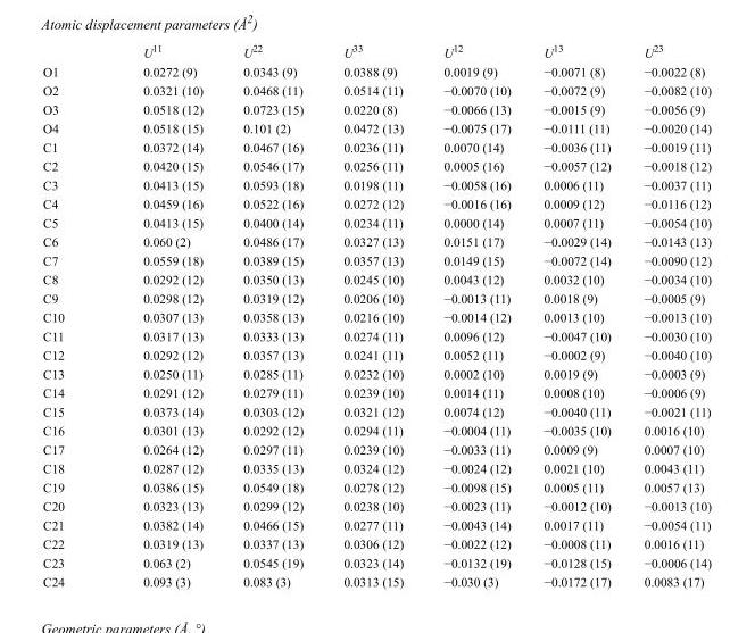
<table><thead><tr><td></td><td>U<sup>11</sup></td><td>U<sup>22</sup></td><td>U<sup>33</sup></td><td>U<sup>12</sup></td><td>U<sup>13</sup></td><td>U<sup>23</sup></td></tr></thead><tbody><tr><td>O1</td><td>0.0272 (9)</td><td>0.0343 (9)</td><td>0.0388 (9)</td><td>0.0019 (9)</td><td>−0.0071 (8)</td><td>−0.0022 (8)</td></tr><tr><td>O2</td><td>0.0321 (10)</td><td>0.0468 (11)</td><td>0.0514 (11)</td><td>−0.0070 (10)</td><td>−0.0072 (9)</td><td>−0.0082 (10)</td></tr><tr><td>O3</td><td>0.0518 (12)</td><td>0.0723 (15)</td><td>0.0220 (8)</td><td>−0.0066 (13)</td><td>−0.0015 (9)</td><td>−0.0056 (9)</td></tr><tr><td>O4</td><td>0.0518 (15)</td><td>0.101 (2)</td><td>0.0472 (13)</td><td>−0.0075 (17)</td><td>−0.0111 (11)</td><td>−0.0020 (14)</td></tr><tr><td>C1</td><td>0.0372 (14)</td><td>0.0467 (16)</td><td>0.0236 (11)</td><td>0.0070 (14)</td><td>−0.0036 (11)</td><td>−0.0019 (11)</td></tr><tr><td>C2</td><td>0.0420 (15)</td><td>0.0546 (17)</td><td>0.0256 (11)</td><td>0.0005 (16)</td><td>−0.0057 (12)</td><td>−0.0018 (12)</td></tr><tr><td>C3</td><td>0.0413 (15)</td><td>0.0593 (18)</td><td>0.0198 (11)</td><td>−0.0058 (16)</td><td>0.0006 (11)</td><td>−0.0037 (11)</td></tr><tr><td>C4</td><td>0.0459 (16)</td><td>0.0522 (16)</td><td>0.0272 (12)</td><td>−0.0016 (16)</td><td>0.0009 (12)</td><td>−0.0116 (12)</td></tr><tr><td>C5</td><td>0.0413 (15)</td><td>0.0400 (14)</td><td>0.0234 (11)</td><td>0.0000 (14)</td><td>0.0007 (11)</td><td>−0.0054 (10)</td></tr><tr><td>C6</td><td>0.060 (2)</td><td>0.0486 (17)</td><td>0.0327 (13)</td><td>0.0151 (17)</td><td>−0.0029 (14)</td><td>−0.0143 (13)</td></tr><tr><td>C7</td><td>0.0559 (18)</td><td>0.0389 (15)</td><td>0.0357 (13)</td><td>0.0149 (15)</td><td>−0.0072 (14)</td><td>−0.0090 (12)</td></tr><tr><td>C8</td><td>0.0292 (12)</td><td>0.0350 (13)</td><td>0.0245 (10)</td><td>0.0043 (12)</td><td>0.0032 (10)</td><td>−0.0034 (10)</td></tr><tr><td>C9</td><td>0.0298 (12)</td><td>0.0319 (12)</td><td>0.0206 (10)</td><td>−0.0013 (11)</td><td>0.0018 (9)</td><td>−0.0005 (9)</td></tr><tr><td>C10</td><td>0.0307 (13)</td><td>0.0358 (13)</td><td>0.0216 (10)</td><td>−0.0014 (12)</td><td>0.0013 (10)</td><td>−0.0013 (10)</td></tr><tr><td>C11</td><td>0.0317 (13)</td><td>0.0333 (13)</td><td>0.0274 (11)</td><td>0.0096 (12)</td><td>−0.0047 (10)</td><td>−0.0030 (10)</td></tr><tr><td>C12</td><td>0.0292 (12)</td><td>0.0357 (13)</td><td>0.0241 (11)</td><td>0.0052 (11)</td><td>−0.0002 (9)</td><td>−0.0040 (10)</td></tr><tr><td>C13</td><td>0.0250 (11)</td><td>0.0285 (11)</td><td>0.0232 (10)</td><td>0.0002 (10)</td><td>0.0019 (9)</td><td>−0.0003 (9)</td></tr><tr><td>C14</td><td>0.0291 (12)</td><td>0.0279 (11)</td><td>0.0239 (10)</td><td>0.0014 (11)</td><td>0.0008 (10)</td><td>−0.0006 (9)</td></tr><tr><td>C15</td><td>0.0373 (14)</td><td>0.0303 (12)</td><td>0.0321 (12)</td><td>0.0074 (12)</td><td>−0.0040 (11)</td><td>−0.0021 (11)</td></tr><tr><td>C16</td><td>0.0301 (13)</td><td>0.0292 (12)</td><td>0.0294 (11)</td><td>−0.0004 (11)</td><td>−0.0035 (10)</td><td>0.0016 (10)</td></tr><tr><td>C17</td><td>0.0264 (12)</td><td>0.0297 (11)</td><td>0.0239 (10)</td><td>−0.0033 (11)</td><td>0.0009 (9)</td><td>0.0007 (10)</td></tr><tr><td>C18</td><td>0.0287 (12)</td><td>0.0335 (13)</td><td>0.0324 (12)</td><td>−0.0024 (12)</td><td>0.0021 (10)</td><td>0.0043 (11)</td></tr><tr><td>C19</td><td>0.0386 (15)</td><td>0.0549 (18)</td><td>0.0278 (12)</td><td>−0.0098 (15)</td><td>0.0005 (11)</td><td>0.0057 (13)</td></tr><tr><td>C20</td><td>0.0323 (13)</td><td>0.0299 (12)</td><td>0.0238 (10)</td><td>−0.0023 (11)</td><td>−0.0012 (10)</td><td>−0.0013 (10)</td></tr><tr><td>C21</td><td>0.0382 (14)</td><td>0.0466 (15)</td><td>0.0277 (11)</td><td>−0.0043 (14)</td><td>0.0017 (11)</td><td>−0.0054 (11)</td></tr><tr><td>C22</td><td>0.0319 (13)</td><td>0.0337 (13)</td><td>0.0306 (12)</td><td>−0.0022 (12)</td><td>−0.0008 (11)</td><td>0.0016 (11)</td></tr><tr><td>C23</td><td>0.063 (2)</td><td>0.0545 (19)</td><td>0.0323 (14)</td><td>−0.0132 (19)</td><td>−0.0128 (15)</td><td>−0.0006 (14)</td></tr><tr><td>C24</td><td>0.093 (3)</td><td>0.083 (3)</td><td>0.0313 (15)</td><td>−0.030 (3)</td><td>−0.0172 (17)</td><td>0.0083 (17)</td></tr></tbody></table>